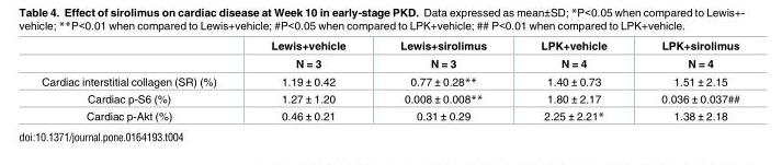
<table><thead><tr><td rowspan="2"></td><td rowspan="2">Lewis+vehicle N = 3</td><td rowspan="2">Lewis+sirolimus N = 3</td><td rowspan="2">LPK+vehicle N = 4</td><td rowspan="2">LPK+sirolimus N = 4</td></tr><tr></tr></thead><tbody><tr><td>Cardiac interstitial collagen (SR) (%)</td><td>1.19 ± 0.42</td><td>0.77 ± 0.28**</td><td>1.40 ± 0.73</td><td>1.51 ± 2.15</td></tr><tr><td>Cardiac p-S6 (%)</td><td>1.27 ± 1.20</td><td>0.008 ± 0.008**</td><td>1.80 ± 2.17</td><td>0.036 ± 0.037##</td></tr><tr><td>Cardiac p-Akt (%)</td><td>0.46 ± 0.21</td><td>0.31 ± 0.29</td><td>2.25 ± 2.21*</td><td>1.38 ± 2.18</td></tr></tbody></table>